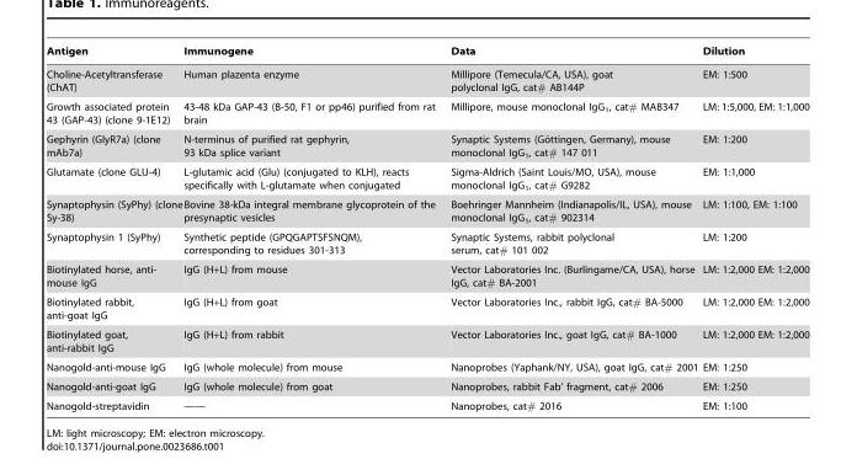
<table><thead><tr><td>Antigen</td><td>Immunogene</td><td>Data</td><td>Dilution</td></tr></thead><tbody><tr><td>Choline-Acetyltransferase (ChAT)</td><td>Human plazenta enzyme</td><td>Millipore (Temecula/CA, USA), goat polyclonal IgG, cat# AB144P</td><td>EM: 1:500</td></tr><tr><td>Growth associated protein 43 (GAP-43) (clone 9-1E12)</td><td>43-48 kDa GAP-43 (B-50, F1 or pp46) purified from rat brain</td><td>Millipore, mouse monoclonal IgG<sub>1</sub>, cat# MAB347</td><td>LM: 1:5,000, EM: 1:1,000</td></tr><tr><td>Gephyrin (GlyR7a) (clone mAb7a)</td><td>N-terminus of purified rat gephyrin, 93 kDa splice variant</td><td>Synaptic Systems (Go¨ttingen, Germany), mouse monoclonal IgG1, cat# 147 011</td><td>EM: 1:200</td></tr><tr><td>Glutamate (clone GLU-4)</td><td>L-glutamic acid (Glu) (conjugated to KLH), reacts specifically with L-glutamate when conjugated</td><td>Sigma-Aldrich (Saint Louis/MO, USA), mouse monoclonal IgG<sub>1</sub>, cat# G9282</td><td>EM: 1:1,000</td></tr><tr><td>Synaptophysin (SyPhy) (clone Sy-38)</td><td>Bovine 38-kDa integral membrane glycoprotein of the presynaptic vesicles</td><td>Boehringer Mannheim (Indianapolis/IL, USA), mouse monoclonal IgG<sub>1</sub>, cat# 902314</td><td>LM: 1:100, EM: 1:100</td></tr><tr><td>Synaptophysin 1 (SyPhy)</td><td>Synthetic peptide (GPQGAPTSFSNQM), corresponding to residues 301-313</td><td>Synaptic Systems, rabbit polyclonal serum, cat# 101 002</td><td>LM: 1:200</td></tr><tr><td>Biotinylated horse, anti- mouse IgG</td><td>IgG (H+L) from mouse</td><td>Vector Laboratories Inc. (Burlingame/CA, USA), horse IgG, cat# BA-2001</td><td>LM: 1:2,000 EM: 1:2,000</td></tr><tr><td>Biotinylated rabbit, anti-goat IgG</td><td>IgG (H+L) from goat</td><td>Vector Laboratories Inc., rabbit IgG, cat# BA-5000</td><td>LM: 1:2,000 EM: 1:2,000</td></tr><tr><td>Biotinylated goat, anti-rabbit IgG</td><td>IgG (H+L) from rabbit</td><td>Vector Laboratories Inc., goat IgG, cat# BA-1000</td><td>LM: 1:2,000 EM: 1:2,000</td></tr><tr><td>Nanogold-anti-mouse IgG</td><td>IgG (whole molecule) from mouse</td><td>Nanoprobes (Yaphank/NY, USA), goat IgG, cat# 2001</td><td>EM: 1:250</td></tr><tr><td>Nanogold-anti-goat IgG</td><td>IgG (whole molecule) from goat</td><td>Nanoprobes, rabbit Fab’ fragment, cat# 2006</td><td>EM: 1:250</td></tr><tr><td>Nanogold-streptavidin</td><td>——</td><td>Nanoprobes, cat# 2016</td><td>EM: 1:100</td></tr></tbody></table>